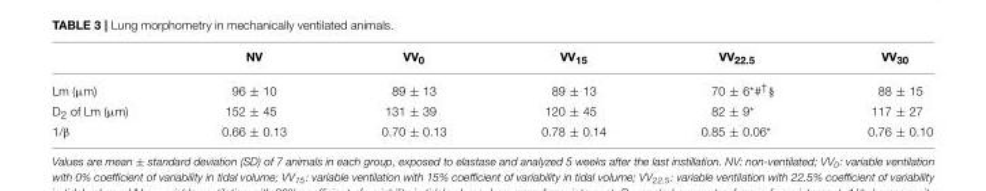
<table><thead><tr><td></td><td>NV</td><td>VV<sub>0</sub></td><td>VV<sub>15</sub></td><td>VV<sub>22.5</sub></td><td>VV<sub>30</sub></td></tr></thead><tbody><tr><td>Lm (µm)</td><td>96 ± 10</td><td>89 ± 13</td><td>89 ± 13</td><td>70 ± 6*#<sup>†</sup>§</td><td>88 ± 15</td></tr><tr><td>D<sub>2</sub> of Lm (µm)</td><td>152 ± 45</td><td>131 ± 39</td><td>120 ± 45</td><td>82 ± 9*</td><td>117 ± 27</td></tr><tr><td>1/β</td><td>0.66 ± 0.13</td><td>0.70 ± 0.13</td><td>0.78 ± 0.14</td><td>0.85 ± 0.06*</td><td>0.76 ± 0.10</td></tr></tbody></table>